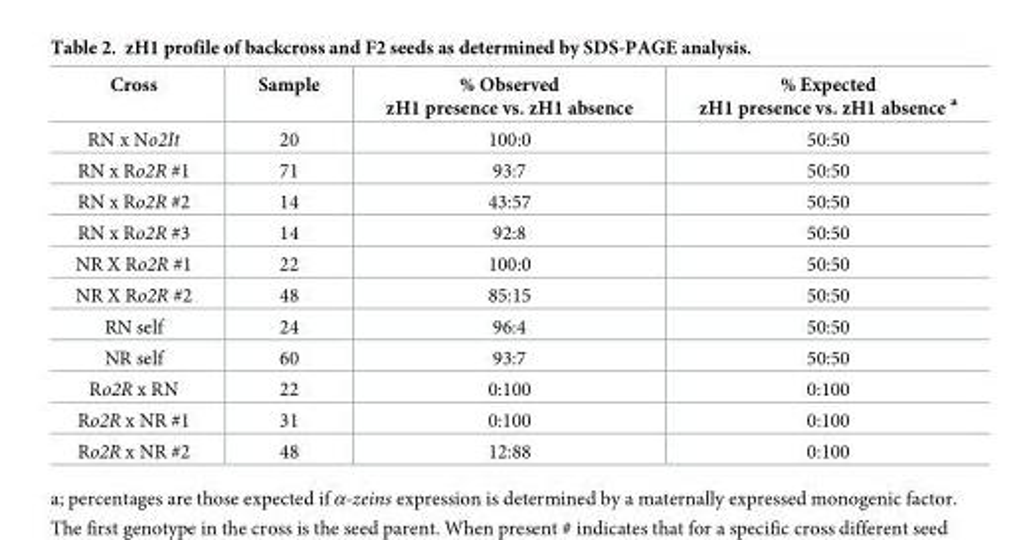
<table><thead><tr><td>Cross</td><td>Sample</td><td>% Observed zH1 presence vs. zH1 absence</td><td>% Expected zH1 presence vs. zH1 absence <sup>a</sup></td></tr></thead><tbody><tr><td>RN x No2It</td><td>20</td><td>100:0</td><td>50:50</td></tr><tr><td>RN x Ro2R #1</td><td>71</td><td>93:7</td><td>50:50</td></tr><tr><td>RN x Ro2R #2</td><td>14</td><td>43:57</td><td>50:50</td></tr><tr><td>RN x Ro2R #3</td><td>14</td><td>92:8</td><td>50:50</td></tr><tr><td>NR X Ro2R #1</td><td>22</td><td>100:0</td><td>50:50</td></tr><tr><td>NR X Ro2R #2</td><td>48</td><td>85:15</td><td>50:50</td></tr><tr><td>RN self</td><td>24</td><td>96:4</td><td>50:50</td></tr><tr><td>NR self</td><td>60</td><td>93:7</td><td>50:50</td></tr><tr><td>Ro2R x RN</td><td>22</td><td>0:100</td><td>0:100</td></tr><tr><td>Ro2R x NR #1</td><td>31</td><td>0:100</td><td>0:100</td></tr><tr><td>Ro2R x NR #2</td><td>48</td><td>12:88</td><td>0:100</td></tr></tbody></table>